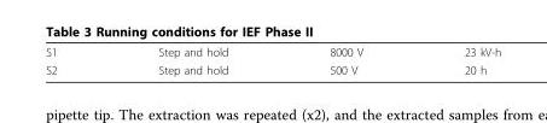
<table><tbody><tr><td>S1</td><td>Step and hold</td><td>8000 V</td><td>23 kV-h</td></tr><tr><td>S2</td><td>Step and hold</td><td>500 V</td><td>20 h</td></tr></tbody></table>